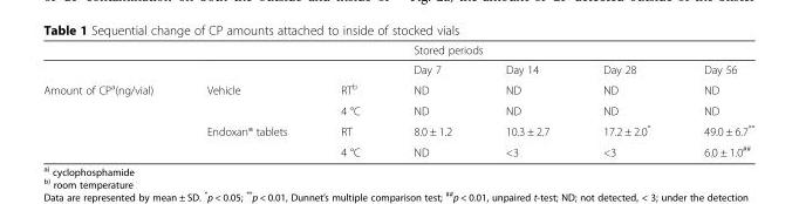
<table><thead><tr><td rowspan="2"></td><td rowspan="2"></td><td rowspan="2"></td><td colspan="4">Stored periods</td></tr><tr><td>Day 7</td><td>Day 14</td><td>Day 28</td><td>Day 56</td></tr></thead><tbody><tr><td rowspan="4">Amount of CP<sup>a</sup>(ng/vial)</td><td rowspan="2">Vehicle</td><td>RT<sup>b</sup></td><td>ND</td><td>ND</td><td>ND</td><td>ND</td></tr><tr><td>4 °C</td><td>ND</td><td>ND</td><td>ND</td><td>ND</td></tr><tr><td rowspan="2">Endoxan® tablets</td><td>RT</td><td>8.0 ± 1.2</td><td>10.3 ± 2.7</td><td>17.2 ± 2.0*</td><td>49.0 ± 6.7**</td></tr><tr><td>4 °C</td><td>ND</td><td>&lt;3</td><td>&lt;3</td><td>6.0 ± 1.0<sup>##</sup></td></tr></tbody></table>